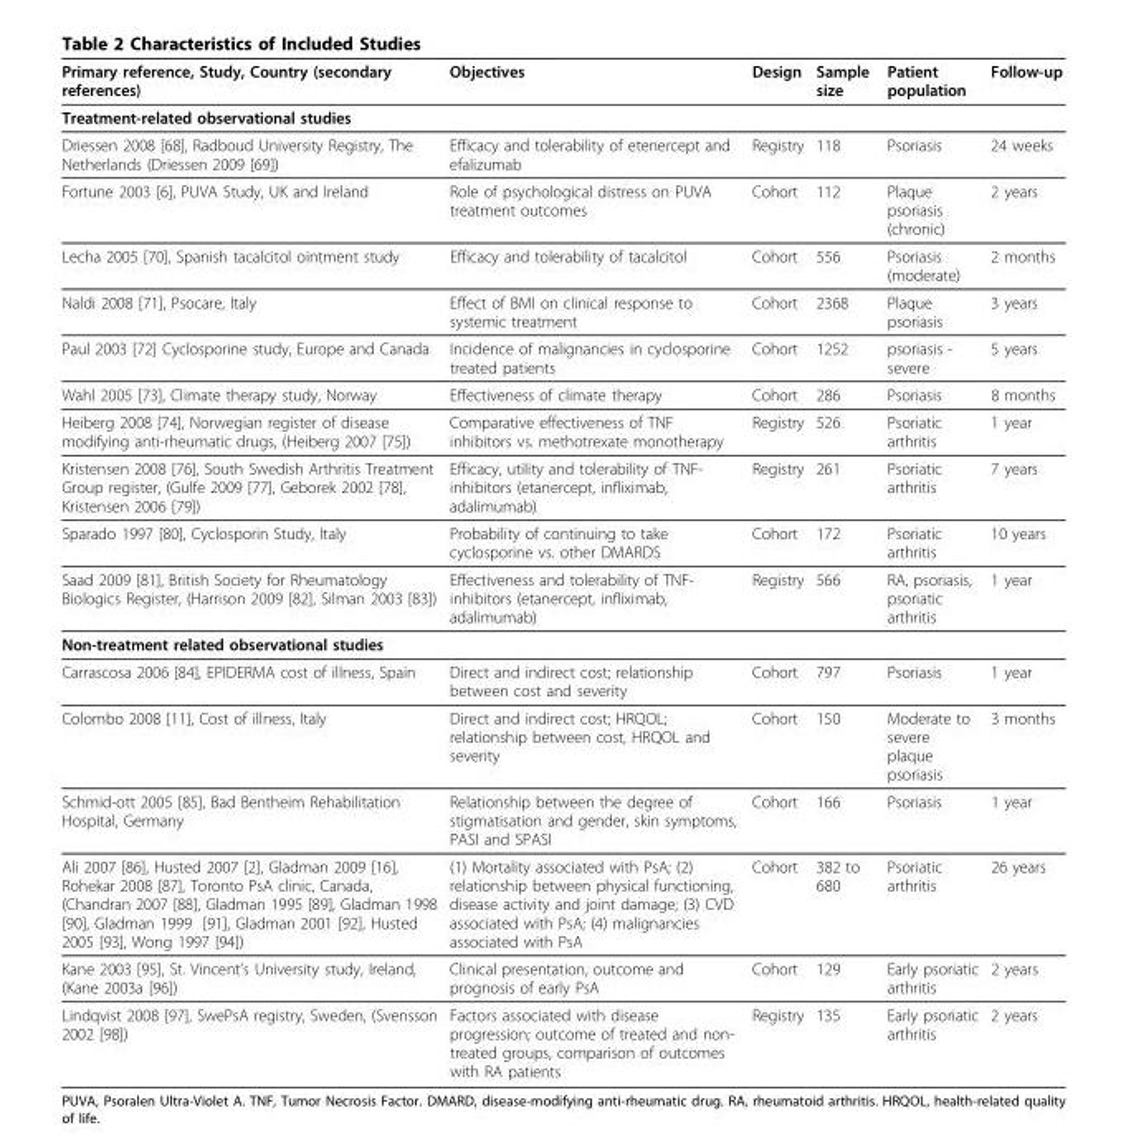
<table><thead><tr><td>Primary reference, Study, Country (secondary references)</td><td>Objectives</td><td>Design</td><td>Sample size</td><td>Patient population</td><td>Follow-up</td></tr></thead><tbody><tr><td colspan="6">Treatment-related observational studies</td></tr><tr><td>Driessen 2008 [68], Radboud University Registry, The Netherlands (Driessen 2009 [69])</td><td>Efficacy and tolerability of etenercept and efalizumab</td><td>Registry</td><td>118</td><td>Psoriasis</td><td>24 weeks</td></tr><tr><td>Fortune 2003 [6], PUVA Study, UK and Ireland</td><td>Role of psychological distress on PUVA treatment outcomes</td><td>Cohort</td><td>112</td><td>Plaque psoriasis (chronic)</td><td>2 years</td></tr><tr><td>Lecha 2005 [70], Spanish tacalcitol ointment study</td><td>Efficacy and tolerability of tacalcitol</td><td>Cohort</td><td>556</td><td>Psoriasis (moderate)</td><td>2 months</td></tr><tr><td>Naldi 2008 [71], Psocare, Italy</td><td>Effect of BMI on clinical response to systemic treatment</td><td>Cohort</td><td>2368</td><td>Plaque psoriasis</td><td>3 years</td></tr><tr><td>Paul 2003 [72] Cyclosporine study, Europe and Canada</td><td>Incidence of malignancies in cyclosporine treated patients</td><td>Cohort</td><td>1252</td><td>psoriasis - severe</td><td>5 years</td></tr><tr><td>Wahl 2005 [73], Climate therapy study, Norway</td><td>Effectiveness of climate therapy</td><td>Cohort</td><td>286</td><td>Psoriasis</td><td>8 months</td></tr><tr><td>Heiberg 2008 [74], Norwegian register of disease modifying anti-rheumatic drugs, (Heiberg 2007 [75])</td><td>Comparative effectiveness of TNF inhibitors vs. methotrexate monotherapy</td><td>Registry</td><td>526</td><td>Psoriatic arthritis</td><td>1 year</td></tr><tr><td>Kristensen 2008 [76], South Swedish Arthritis Treatment Group register, (Gulfe 2009 [77], Geborek 2002 [78], Kristensen 2006 [79])</td><td>Efficacy, utility and tolerability of TNF- inhibitors (etanercept, infliximab, adalimumab)</td><td>Registry</td><td>261</td><td>Psoriatic arthritis</td><td>7 years</td></tr><tr><td>Sparado 1997 [80], Cyclosporin Study, Italy</td><td>Probability of continuing to take cyclosporine vs. other DMARDS</td><td>Cohort</td><td>172</td><td>Psoriatic arthritis</td><td>10 years</td></tr><tr><td>Saad 2009 [81], British Society for Rheumatology Biologics Register, (Harrison 2009 [82], Silman 2003 [83])</td><td>Effectiveness and tolerability of TNF- inhibitors (etanercept, infliximab, adalimumab)</td><td>Registry</td><td>566</td><td>RA, psoriasis, psoriatic arthritis</td><td>1 year</td></tr><tr><td colspan="6">Non-treatment related observational studies</td></tr><tr><td>Carrascosa 2006 [84], EPIDERMA cost of illness, Spain</td><td>Direct and indirect cost; relationship between cost and severity</td><td>Cohort</td><td>797</td><td>Psoriasis</td><td>1 year</td></tr><tr><td>Colombo 2008 [11], Cost of illness, Italy</td><td>Direct and indirect cost; HRQOL; relationship between cost, HRQOL and severity</td><td>Cohort</td><td>150</td><td>Moderate to severe plaque psoriasis</td><td>3 months</td></tr><tr><td>Schmid-ott 2005 [85], Bad Bentheim Rehabilitation Hospital, Germany</td><td>Relationship between the degree of stigmatisation and gender, skin symptoms, PASI and SPASI</td><td>Cohort</td><td>166</td><td>Psoriasis</td><td>1 year</td></tr><tr><td>Ali 2007 [86], Husted 2007 [2], Gladman 2009 [16], Rohekar 2008 [87], Toronto PsA clinic, Canada, (Chandran 2007 [88], Gladman 1995 [89], Gladman 1998 [90], Gladman 1999 [91], Gladman 2001 [92], Husted 2005 [93], Wong 1997 [94])</td><td>(1) Mortality associated with PsA; (2) relationship between physical functioning, disease activity and joint damage; (3) CVD associated with PsA; (4) malignancies associated with PsA</td><td>Cohort</td><td>382 to 680</td><td>Psoriatic arthritis</td><td>26 years</td></tr><tr><td>Kane 2003 [95], St. Vincent’s University study, Ireland, (Kane 2003a [96])</td><td>Clinical presentation, outcome and prognosis of early PsA</td><td>Cohort</td><td>129</td><td>Early psoriatic arthritis</td><td>2 years</td></tr><tr><td>Lindqvist 2008 [97], SwePsA registry, Sweden, (Svensson 2002 [98])</td><td>Factors associated with disease progression; outcome of treated and non- treated groups, comparison of outcomes with RA patients</td><td>Registry</td><td>135</td><td>Early psoriatic arthritis</td><td>2 years</td></tr></tbody></table>